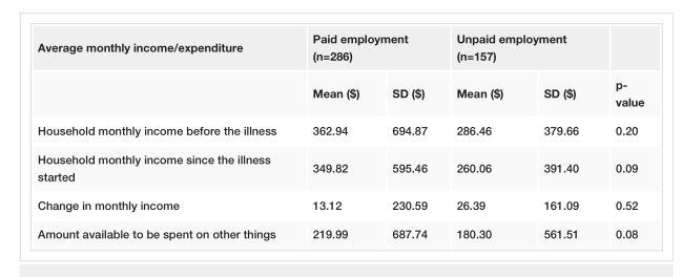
<table><tbody><tr><td rowspan="2">Average monthly income/expenditure</td><td colspan="2">Paid employment (n=286)</td><td colspan="2">Unpaid employment (n=157)</td><td></td></tr><tr><td>Mean ($)</td><td>SD ($)</td><td>Mean ($)</td><td>SD ($)</td><td>p- value</td></tr><tr><td>Household monthly income before the illness</td><td>362.94</td><td>694.87</td><td>286.46</td><td>379.66</td><td>0.20</td></tr><tr><td>Household monthly income since the illness started</td><td>349.82</td><td>595.46</td><td>260.06</td><td>391.40</td><td>0.09</td></tr><tr><td>Change in monthly income</td><td>13.12</td><td>230.59</td><td>26.39</td><td>161.09</td><td>0.52</td></tr><tr><td>Amount available to be spent on other things</td><td>219.99</td><td>687.74</td><td>180.30</td><td>561.51</td><td>0.08</td></tr></tbody></table>